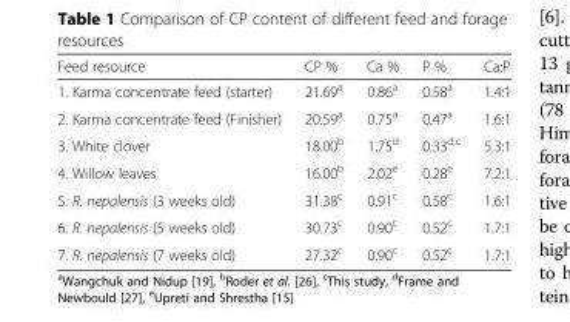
<table><thead><tr><td>Feed resource</td><td>CP %</td><td>Ca %</td><td>P %</td><td>Ca:P</td></tr></thead><tbody><tr><td>1. Karma concentrate feed (starter)</td><td>21.69<sup>a</sup></td><td>0.86<sup>a</sup></td><td>0.58<sup>a</sup></td><td>1.4:1</td></tr><tr><td>2. Karma concentrate feed (Finisher)</td><td>20.59<sup>a</sup></td><td>0.75<sup>a</sup></td><td>0.47<sup>a</sup></td><td>1.6:1</td></tr><tr><td>3. White clover</td><td>18.00<sup>b</sup></td><td>1.75<sup>d</sup></td><td>0.33<sup>d,c</sup></td><td>5.3:1</td></tr><tr><td>4. Willow leaves</td><td>16.00<sup>b</sup></td><td>2.02<sup>e</sup></td><td>0.28<sup>e</sup></td><td>7.2:1</td></tr><tr><td>5. R. nepalensis (3 weeks old)</td><td>31.38<sup>c</sup></td><td>0.91<sup>c</sup></td><td>0.58<sup>c</sup></td><td>1.6:1</td></tr><tr><td>6. R. nepalensis (5 weeks old)</td><td>30.73<sup>c</sup></td><td>0.90<sup>c</sup></td><td>0.52<sup>c</sup></td><td>1.7:1</td></tr><tr><td>7. R. nepalensis (7 weeks old)</td><td>27.32<sup>c</sup></td><td>0.90<sup>c</sup></td><td>0.52<sup>c</sup></td><td>1.7:1</td></tr></tbody></table>